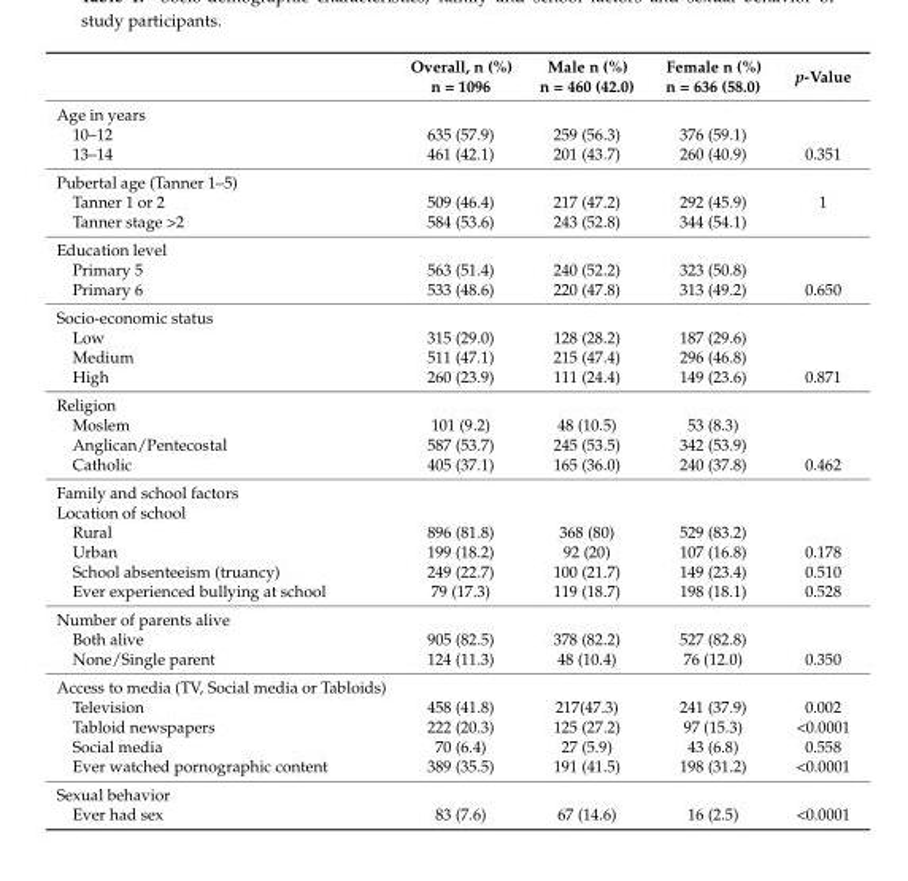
<table><thead><tr><td></td><td>Overall, n (%) n = 1096</td><td>Male n (%) n = 460 (42.0)</td><td>Female n (%) n = 636 (58.0)</td><td>p-Value</td></tr></thead><tbody><tr><td colspan="5">Age in years</td></tr><tr><td>10–12</td><td>635 (57.9)</td><td>259 (56.3)</td><td>376 (59.1)</td><td></td></tr><tr><td>13–14</td><td>461 (42.1)</td><td>201 (43.7)</td><td>260 (40.9)</td><td>0.351</td></tr><tr><td colspan="5">Pubertal age (Tanner 1–5)</td></tr><tr><td>Tanner 1 or 2</td><td>509 (46.4)</td><td>217 (47.2)</td><td>292 (45.9)</td><td>1</td></tr><tr><td>Tanner stage &gt;2</td><td>584 (53.6)</td><td>243 (52.8)</td><td>344 (54.1)</td><td></td></tr><tr><td colspan="5">Education level</td></tr><tr><td>Primary 5</td><td>563 (51.4)</td><td>240 (52.2)</td><td>323 (50.8)</td><td></td></tr><tr><td>Primary 6</td><td>533 (48.6)</td><td>220 (47.8)</td><td>313 (49.2)</td><td>0.650</td></tr><tr><td colspan="5">Socio-economic status</td></tr><tr><td>Low</td><td>315 (29.0)</td><td>128 (28.2)</td><td>187 (29.6)</td><td></td></tr><tr><td>Medium</td><td>511 (47.1)</td><td>215 (47.4)</td><td>296 (46.8)</td><td></td></tr><tr><td>High</td><td>260 (23.9)</td><td>111 (24.4)</td><td>149 (23.6)</td><td>0.871</td></tr><tr><td colspan="5">Religion</td></tr><tr><td>Moslem</td><td>101 (9.2)</td><td>48 (10.5)</td><td>53 (8.3)</td><td></td></tr><tr><td>Anglican/Pentecostal</td><td>587 (53.7)</td><td>245 (53.5)</td><td>342 (53.9)</td><td></td></tr><tr><td>Catholic</td><td>405 (37.1)</td><td>165 (36.0)</td><td>240 (37.8)</td><td>0.462</td></tr><tr><td colspan="5">Family and school factors</td></tr><tr><td colspan="5">Location of school</td></tr><tr><td>Rural</td><td>896 (81.8)</td><td>368 (80)</td><td>529 (83.2)</td><td></td></tr><tr><td>Urban</td><td>199 (18.2)</td><td>92 (20)</td><td>107 (16.8)</td><td>0.178</td></tr><tr><td>School absenteeism (truancy)</td><td>249 (22.7)</td><td>100 (21.7)</td><td>149 (23.4)</td><td>0.510</td></tr><tr><td>Ever experienced bullying at school</td><td>79 (17.3)</td><td>119 (18.7)</td><td>198 (18.1)</td><td>0.528</td></tr><tr><td colspan="5">Number of parents alive</td></tr><tr><td>Both alive</td><td>905 (82.5)</td><td>378 (82.2)</td><td>527 (82.8)</td><td></td></tr><tr><td>None/Single parent</td><td>124 (11.3)</td><td>48 (10.4)</td><td>76 (12.0)</td><td>0.350</td></tr><tr><td colspan="5">Access to media (TV, Social media or Tabloids)</td></tr><tr><td>Television</td><td>458 (41.8)</td><td>217(47.3)</td><td>241 (37.9)</td><td>0.002</td></tr><tr><td>Tabloid newspapers</td><td>222 (20.3)</td><td>125 (27.2)</td><td>97 (15.3)</td><td>&lt;0.0001</td></tr><tr><td>Social media</td><td>70 (6.4)</td><td>27 (5.9)</td><td>43 (6.8)</td><td>0.558</td></tr><tr><td>Ever watched pornographic content</td><td>389 (35.5)</td><td>191 (41.5)</td><td>198 (31.2)</td><td>&lt;0.0001</td></tr><tr><td colspan="5">Sexual behavior</td></tr><tr><td>Ever had sex</td><td>83 (7.6)</td><td>67 (14.6)</td><td>16 (2.5)</td><td>&lt;0.0001</td></tr></tbody></table>